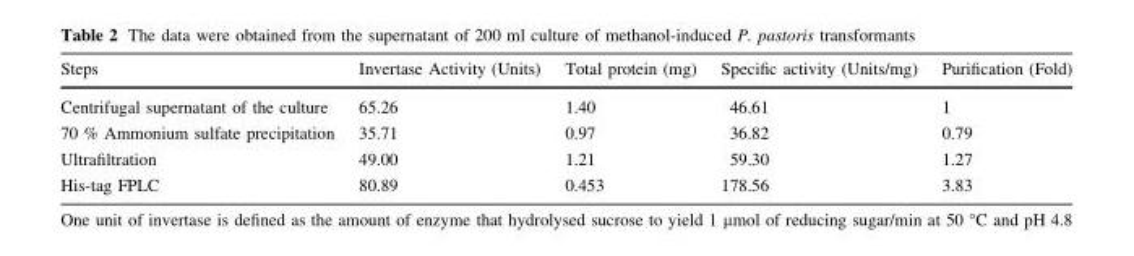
<table><thead><tr><td>Steps</td><td>Invertase Activity (Units)</td><td>Total protein (mg)</td><td>Specific activity (Units/mg)</td><td>Purification (Fold)</td></tr></thead><tbody><tr><td>Centrifugal supernatant of the culture</td><td>65.26</td><td>1.40</td><td>46.61</td><td>1</td></tr><tr><td>70 % Ammonium sulfate precipitation</td><td>35.71</td><td>0.97</td><td>36.82</td><td>0.79</td></tr><tr><td>Ultrafiltration</td><td>49.00</td><td>1.21</td><td>59.30</td><td>1.27</td></tr><tr><td>His-tag FPLC</td><td>80.89</td><td>0.453</td><td>178.56</td><td>3.83</td></tr></tbody></table>